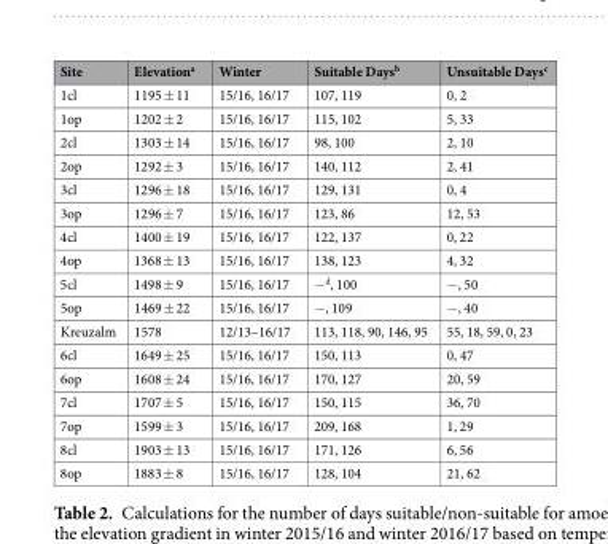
<table><thead><tr><td>Site</td><td>Elevation<sup>a</sup></td><td>Winter</td><td>Suitable Days<sup>b</sup></td><td>Unsuitable Days<sup>c</sup></td></tr></thead><tbody><tr><td>1cl</td><td>1195 ± 11</td><td>15/16, 16/17</td><td>107, 119</td><td>0, 2</td></tr><tr><td>1op</td><td>1202 ± 2</td><td>15/16, 16/17</td><td>115, 102</td><td>5, 33</td></tr><tr><td>2cl</td><td>1303 ± 14</td><td>15/16, 16/17</td><td>98, 100</td><td>2, 10</td></tr><tr><td>2op</td><td>1292 ± 3</td><td>15/16, 16/17</td><td>140, 112</td><td>2, 41</td></tr><tr><td>3cl</td><td>1296 ± 18</td><td>15/16, 16/17</td><td>129, 131</td><td>0, 4</td></tr><tr><td>3op</td><td>1296 ± 7</td><td>15/16, 16/17</td><td>123, 86</td><td>12, 53</td></tr><tr><td>4cl</td><td>1400 ± 19</td><td>15/16, 16/17</td><td>122, 137</td><td>0, 22</td></tr><tr><td>4op</td><td>1368 ± 13</td><td>15/16, 16/17</td><td>138, 123</td><td>4, 32</td></tr><tr><td>5cl</td><td>1498 ± 9</td><td>15/16, 16/17</td><td>−<sup>d</sup>, 100</td><td>−, 50</td></tr><tr><td>5op</td><td>1469 ± 22</td><td>15/16, 16/17</td><td>−, 109</td><td>−, 40</td></tr><tr><td>Kreuzalm</td><td>1578</td><td>12/13–16/17</td><td>113, 118, 90, 146, 95</td><td>55, 18, 59, 0, 23</td></tr><tr><td>6cl</td><td>1649 ± 25</td><td>15/16, 16/17</td><td>150, 113</td><td>0, 47</td></tr><tr><td>6op</td><td>1608 ± 24</td><td>15/16, 16/17</td><td>170, 127</td><td>20, 59</td></tr><tr><td>7cl</td><td>1707 ± 5</td><td>15/16, 16/17</td><td>150, 115</td><td>36, 70</td></tr><tr><td>7op</td><td>1599 ± 3</td><td>15/16, 16/17</td><td>209, 168</td><td>1, 29</td></tr><tr><td>8cl</td><td>1903 ± 13</td><td>15/16, 16/17</td><td>171, 126</td><td>6, 56</td></tr><tr><td>8op</td><td>1883 ± 8</td><td>15/16, 16/17</td><td>128, 104</td><td>21, 62</td></tr></tbody></table>